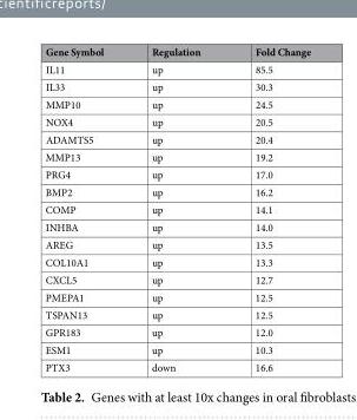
<table><thead><tr><td>Gene Symbol</td><td>Regulation</td><td>Fold Change</td></tr></thead><tbody><tr><td>IL11</td><td>up</td><td>85.5</td></tr><tr><td>IL33</td><td>up</td><td>30.3</td></tr><tr><td>MMP10</td><td>up</td><td>24.5</td></tr><tr><td>NOX4</td><td>up</td><td>20.5</td></tr><tr><td>ADAMTS5</td><td>up</td><td>20.4</td></tr><tr><td>MMP13</td><td>up</td><td>19.2</td></tr><tr><td>PRG4</td><td>up</td><td>17.0</td></tr><tr><td>BMP2</td><td>up</td><td>16.2</td></tr><tr><td>COMP</td><td>up</td><td>14.1</td></tr><tr><td>INHBA</td><td>up</td><td>14.0</td></tr><tr><td>AREG</td><td>up</td><td>13.5</td></tr><tr><td>COL10A1</td><td>up</td><td>13.3</td></tr><tr><td>CXCL5</td><td>up</td><td>12.7</td></tr><tr><td>PMEPA1</td><td>up</td><td>12.5</td></tr><tr><td>TSPAN13</td><td>up</td><td>12.5</td></tr><tr><td>GPR183</td><td>up</td><td>12.0</td></tr><tr><td>ESM1</td><td>up</td><td>10.3</td></tr><tr><td>PTX3</td><td>down</td><td>16.6</td></tr></tbody></table>